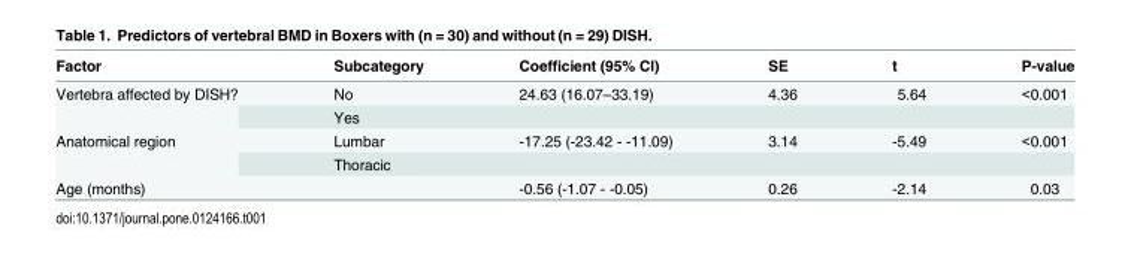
<table><thead><tr><td>Factor</td><td>Subcategory</td><td>Coefficient (95% CI)</td><td>SE</td><td>t</td><td>P-value</td></tr></thead><tbody><tr><td rowspan="2">Vertebra affected by DISH?</td><td>No</td><td>24.63 (16.07–33.19)</td><td>4.36</td><td>5.64</td><td>&lt;0.001</td></tr><tr><td>Yes</td><td colspan="4"></td></tr><tr><td rowspan="2">Anatomical region</td><td>Lumbar</td><td>-17.25 (-23.42 - -11.09)</td><td>3.14</td><td>-5.49</td><td>&lt;0.001</td></tr><tr><td>Thoracic</td><td colspan="4"></td></tr><tr><td colspan="2">Age (months)</td><td>-0.56 (-1.07 - -0.05)</td><td>0.26</td><td>-2.14</td><td>0.03</td></tr></tbody></table>